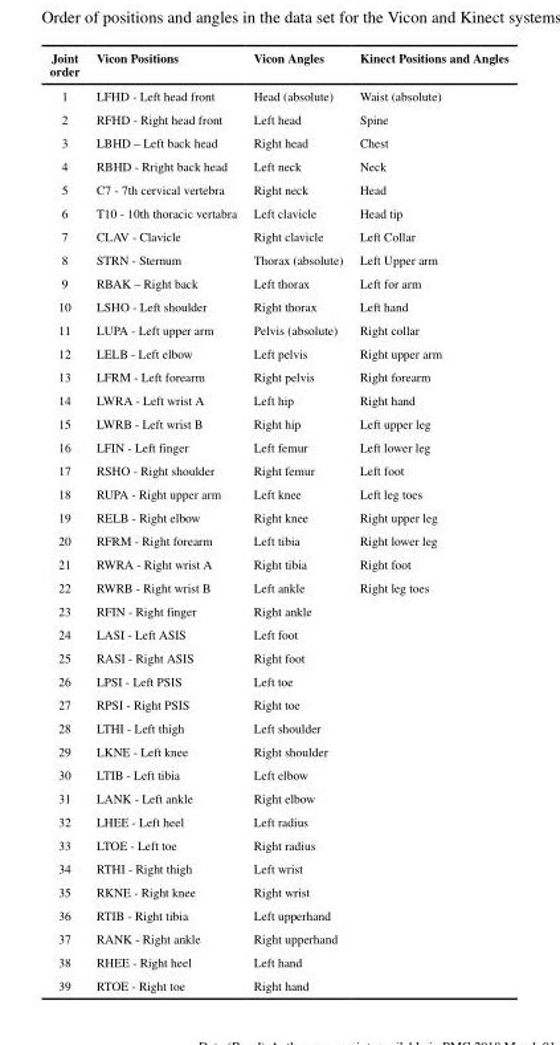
<table><thead><tr><td>Joint order</td><td>Vicon Positions</td><td>Vicon Angles</td><td>Kinect Positions and Angles</td></tr></thead><tbody><tr><td>1</td><td>LFHD - Left head front</td><td>Head (absolute)</td><td>Waist (absolute)</td></tr><tr><td>2</td><td>RFHD - Right head front</td><td>Left head</td><td>Spine</td></tr><tr><td>3</td><td>LBHD – Left back head</td><td>Right head</td><td>Chest</td></tr><tr><td>4</td><td>RBHD - Rright back head</td><td>Left neck</td><td>Neck</td></tr><tr><td>5</td><td>C7 - 7th cervical vertebra</td><td>Right neck</td><td>Head</td></tr><tr><td>6</td><td>T10 - 10th thoracic vertabra</td><td>Left clavicle</td><td>Head tip</td></tr><tr><td>7</td><td>CLAV - Clavicle</td><td>Right clavicle</td><td>Left Collar</td></tr><tr><td>8</td><td>STRN - Sternum</td><td>Thorax (absolute)</td><td>Left Upper arm</td></tr><tr><td>9</td><td>RBAK – Right back</td><td>Left thorax</td><td>Left for arm</td></tr><tr><td>10</td><td>LSHO - Left shoulder</td><td>Right thorax</td><td>Left hand</td></tr><tr><td>11</td><td>LUPA - Left upper arm</td><td>Pelvis (absolute)</td><td>Right collar</td></tr><tr><td>12</td><td>LELB - Left elbow</td><td>Left pelvis</td><td>Right upper arm</td></tr><tr><td>13</td><td>LFRM - Left forearm</td><td>Right pelvis</td><td>Right forearm</td></tr><tr><td>14</td><td>LWRA - Left wrist A</td><td>Left hip</td><td>Right hand</td></tr><tr><td>15</td><td>LWRB - Left wrist B</td><td>Right hip</td><td>Left upper leg</td></tr><tr><td>16</td><td>LFIN - Left finger</td><td>Left femur</td><td>Left lower leg</td></tr><tr><td>17</td><td>RSHO - Right shoulder</td><td>Right femur</td><td>Left foot</td></tr><tr><td>18</td><td>RUPA - Right upper arm</td><td>Left knee</td><td>Left leg toes</td></tr><tr><td>19</td><td>RELB - Right elbow</td><td>Right knee</td><td>Right upper leg</td></tr><tr><td>20</td><td>RFRM - Right forearm</td><td>Left tibia</td><td>Right lower leg</td></tr><tr><td>21</td><td>RWRA - Right wrist A</td><td>Right tibia</td><td>Right foot</td></tr><tr><td>22</td><td>RWRB - Right wrist B</td><td>Left ankle</td><td>Right leg toes</td></tr><tr><td>23</td><td>RFIN - Right finger</td><td>Right ankle</td><td></td></tr><tr><td>24</td><td>LASI - Left ASIS</td><td>Left foot</td><td></td></tr><tr><td>25</td><td>RASI - Right ASIS</td><td>Right foot</td><td></td></tr><tr><td>26</td><td>LPSI - Left PSIS</td><td>Left toe</td><td></td></tr><tr><td>27</td><td>RPSI - Right PSIS</td><td>Right toe</td><td></td></tr><tr><td>28</td><td>LTHI - Left thigh</td><td>Left shoulder</td><td></td></tr><tr><td>29</td><td>LKNE - Left knee</td><td>Right shoulder</td><td></td></tr><tr><td>30</td><td>LTIB - Left tibia</td><td>Left elbow</td><td></td></tr><tr><td>31</td><td>LANK - Left ankle</td><td>Right elbow</td><td></td></tr><tr><td>32</td><td>LHEE - Left heel</td><td>Left radius</td><td></td></tr><tr><td>33</td><td>LTOE - Left toe</td><td>Right radius</td><td></td></tr><tr><td>34</td><td>RTHI - Right thigh</td><td>Left wrist</td><td></td></tr><tr><td>35</td><td>RKNE - Right knee</td><td>Right wrist</td><td></td></tr><tr><td>36</td><td>RTIB - Right tibia</td><td>Left upperhand</td><td></td></tr><tr><td>37</td><td>RANK - Right ankle</td><td>Right upperhand</td><td></td></tr><tr><td>38</td><td>RHEE - Right heel</td><td>Left hand</td><td></td></tr><tr><td>39</td><td>RTOE - Right toe</td><td>Right hand</td><td></td></tr></tbody></table>